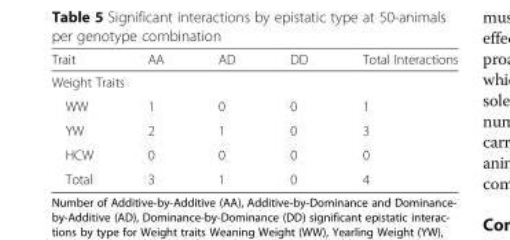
<table><thead><tr><td>Trait</td><td>AA</td><td>AD</td><td>DD</td><td>Total Interactions</td></tr></thead><tbody><tr><td colspan="5">Weight Traits</td></tr><tr><td>WW</td><td>1</td><td>0</td><td>0</td><td>1</td></tr><tr><td>YW</td><td>2</td><td>1</td><td>0</td><td>3</td></tr><tr><td>HCW</td><td>0</td><td>0</td><td>0</td><td>0</td></tr><tr><td>Total</td><td>3</td><td>1</td><td>0</td><td>4</td></tr></tbody></table>